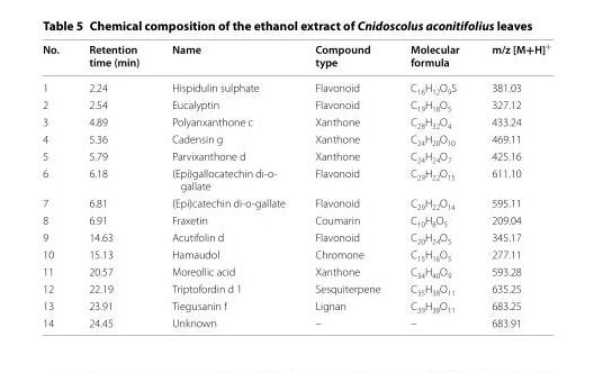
<table><thead><tr><td>No.</td><td>Retention time (min)</td><td>Name</td><td>Compound type</td><td>Molecular formula</td><td>m/z [M+H]<sup>+</sup></td></tr></thead><tbody><tr><td>1</td><td>2.24</td><td>Hispidulin sulphate</td><td>Flavonoid</td><td>C<sub>16</sub>H<sub>12</sub>O<sub>9</sub>S</td><td>381.03</td></tr><tr><td>2</td><td>2.54</td><td>Eucalyptin</td><td>Flavonoid</td><td>C<sub>19</sub>H<sub>18</sub>O<sub>5</sub></td><td>327.12</td></tr><tr><td>3</td><td>4.89</td><td>Polyanxanthone c</td><td>Xanthone</td><td>C<sub>28</sub>H<sub>32</sub>O<sub>4</sub></td><td>433.24</td></tr><tr><td>4</td><td>5.36</td><td>Cadensin g</td><td>Xanthone</td><td>C<sub>24</sub>H<sub>20</sub>O<sub>10</sub></td><td>469.11</td></tr><tr><td>5</td><td>5.79</td><td>Parvixanthone d</td><td>Xanthone</td><td>C<sub>24</sub>H<sub>24</sub>O<sub>7</sub></td><td>425.16</td></tr><tr><td>6</td><td>6.18</td><td>(Epi)gallocatechin di‑o‑ gallate</td><td>Flavonoid</td><td>C<sub>29</sub>H<sub>22</sub>O<sub>15</sub></td><td>611.10</td></tr><tr><td>7</td><td>6.81</td><td>(Epi)catechin di‑o‑gallate</td><td>Flavonoid</td><td>C<sub>29</sub>H<sub>22</sub>O<sub>14</sub></td><td>595.11</td></tr><tr><td>8</td><td>6.91</td><td>Fraxetin</td><td>Coumarin</td><td>C<sub>10</sub>H<sub>8</sub>O<sub>5</sub></td><td>209.04</td></tr><tr><td>9</td><td>14.63</td><td>Acutifolin d</td><td>Flavonoid</td><td>C<sub>20</sub>H<sub>24</sub>O<sub>5</sub></td><td>345.17</td></tr><tr><td>10</td><td>15.13</td><td>Hamaudol</td><td>Chromone</td><td>C<sub>15</sub>H<sub>16</sub>O<sub>5</sub></td><td>277.11</td></tr><tr><td>11</td><td>20.57</td><td>Moreollic acid</td><td>Xanthone</td><td>C<sub>34</sub>H<sub>40</sub>O<sub>9</sub></td><td>593.28</td></tr><tr><td>12</td><td>22.19</td><td>Triptofordin d 1</td><td>Sesquiterpene</td><td>C<sub>35</sub>H<sub>38</sub>O<sub>11</sub></td><td>635.25</td></tr><tr><td>13</td><td>23.91</td><td>Tiegusanin f</td><td>Lignan</td><td>C<sub>39</sub>H<sub>38</sub>O<sub>11</sub></td><td>683.25</td></tr><tr><td>14</td><td>24.45</td><td>Unknown</td><td>–</td><td>–</td><td>683.91</td></tr></tbody></table>